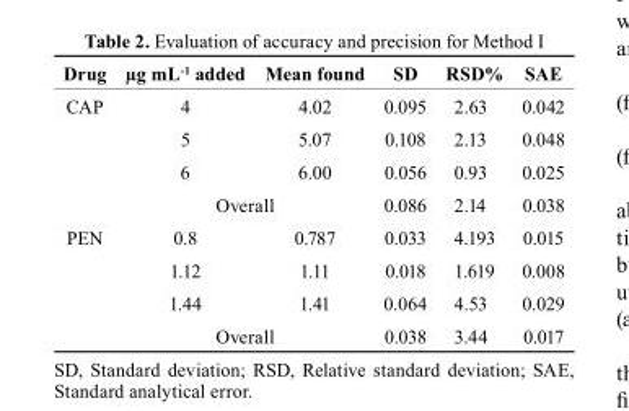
<table><thead><tr><td>Drug</td><td>µg mL<sup>-1</sup> added</td><td>Mean found</td><td>sD</td><td>rsD%</td><td>sAE</td></tr></thead><tbody><tr><td rowspan="4">CAP</td><td>4</td><td>4.02</td><td>0.095</td><td>2.63</td><td>0.042</td></tr><tr><td>5</td><td>5.07</td><td>0.108</td><td>2.13</td><td>0.048</td></tr><tr><td>6</td><td>6.00</td><td>0.056</td><td>0.93</td><td>0.025</td></tr><tr><td colspan="2">Overall</td><td>0.086</td><td>2.14</td><td>0.038</td></tr><tr><td rowspan="4">PEN</td><td>0.8</td><td>0.787</td><td>0.033</td><td>4.193</td><td>0.015</td></tr><tr><td>1.12</td><td>1.11</td><td>0.018</td><td>1.619</td><td>0.008</td></tr><tr><td>1.44</td><td>1.41</td><td>0.064</td><td>4.53</td><td>0.029</td></tr><tr><td colspan="2">Overall</td><td>0.038</td><td>3.44</td><td>0.017</td></tr></tbody></table>